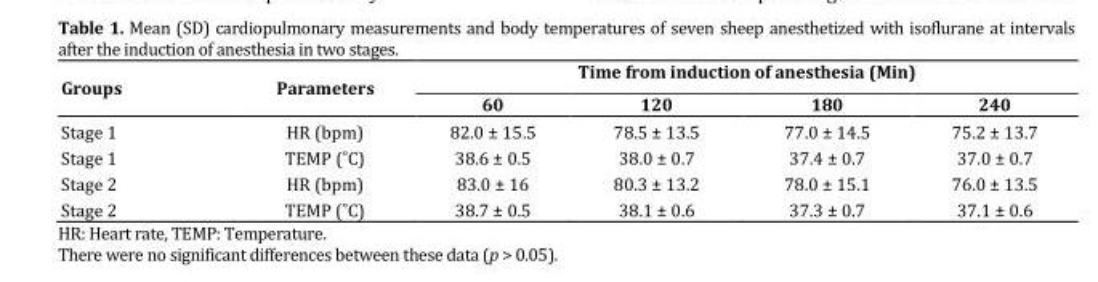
<table><thead><tr><td rowspan="2">Groups</td><td rowspan="2">Parameters</td><td colspan="4">Time from induction of anesthesia (Min)</td></tr><tr><td>60</td><td>120</td><td>180</td><td>240</td></tr></thead><tbody><tr><td>Stage 1</td><td>HR (bpm)</td><td>82.0 ± 15.5</td><td>78.5 ± 13.5</td><td>77.0 ± 14.5</td><td>75.2 ± 13.7</td></tr><tr><td>Stage 1</td><td>TEMP (˚C)</td><td>38.6 ± 0.5</td><td>38.0 ± 0.7</td><td>37.4 ± 0.7</td><td>37.0 ± 0.7</td></tr><tr><td>Stage 2</td><td>HR (bpm)</td><td>83.0 ± 16</td><td>80.3 ± 13.2</td><td>78.0 ± 15.1</td><td>76.0 ± 13.5</td></tr><tr><td>Stage 2</td><td>TEMP (˚C)</td><td>38.7 ± 0.5</td><td>38.1 ± 0.6</td><td>37.3 ± 0.7</td><td>37.1 ± 0.6</td></tr></tbody></table>